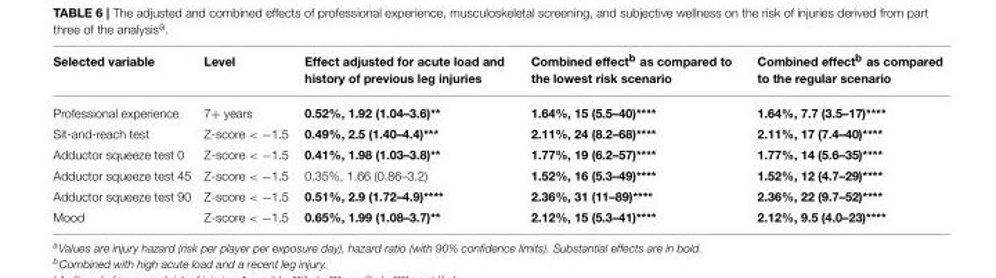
<table><thead><tr><td>Selected variable</td><td>Level</td><td>Effect adjusted for acute load and history of previous leg injuries</td><td>Combined effect<sup>b</sup> as compared to the lowest risk scenario</td><td>Combined effect<sup>b</sup> as compared to the regular scenario</td></tr></thead><tbody><tr><td>Professional experience</td><td>7+ years</td><td>0.52%, 1.92 (1.04–3.6)**</td><td>1.64%, 15 (5.5–40)****</td><td>1.64%, 7.7 (3.5–17)****</td></tr><tr><td>Sit-and-reach test</td><td>Z-score &lt; −1.5</td><td>0.49%, 2.5 (1.40–4.4)***</td><td>2.11%, 24 (8.2–68)****</td><td>2.11%, 17 (7.4–40)****</td></tr><tr><td>Adductor squeeze test 0</td><td>Z-score &lt; −1.5</td><td>0.41%, 1.98 (1.03–3.8)**</td><td>1.77%, 19 (6.2–57)****</td><td>1.77%, 14 (5.6–35)****</td></tr><tr><td>Adductor squeeze test 45</td><td>Z-score &lt; −1.5</td><td>0.35%, 1.66 (0.86–3.2)</td><td>1.52%, 16 (5.3–49)****</td><td>1.52%, 12 (4.7–29)****</td></tr><tr><td>Adductor squeeze test 90</td><td>Z-score &lt; −1.5</td><td>0.51%, 2.9 (1.72–4.9)****</td><td>2.36%, 31 (11–89)****</td><td>2.36%, 22 (9.7–52)****</td></tr><tr><td>Mood</td><td>Z-score &lt; −1.5</td><td>0.65%, 1.99 (1.08–3.7)**</td><td>2.12%, 15 (5.3–41)****</td><td>2.12%, 9.5 (4.0–23)****</td></tr></tbody></table>